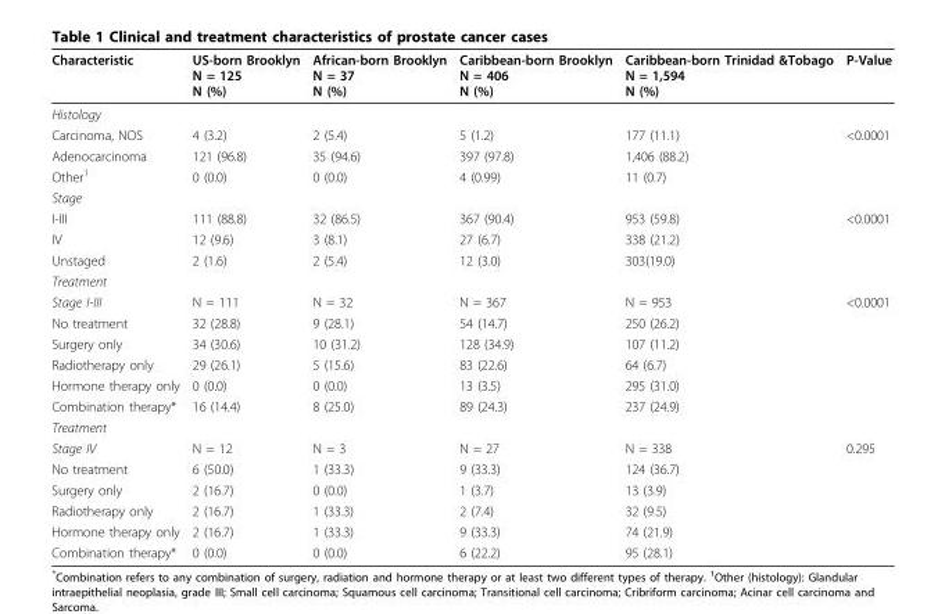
<table><thead><tr><td>Characteristic</td><td>US-born Brooklyn N = 125 N (%)</td><td>African-born Brooklyn N = 37 N (%)</td><td>Caribbean-born Brooklyn N = 406 N (%)</td><td>Caribbean-born Trinidad &amp;Tobago N = 1,594 N (%)</td><td>P-Value</td></tr></thead><tbody><tr><td colspan="6">Histology</td></tr><tr><td>Carcinoma, NOS</td><td>4 (3.2)</td><td>2 (5.4)</td><td>5 (1.2)</td><td>177 (11.1)</td><td>&lt;0.0001</td></tr><tr><td>Adenocarcinoma</td><td>121 (96.8)</td><td>35 (94.6)</td><td>397 (97.8)</td><td>1,406 (88.2)</td><td></td></tr><tr><td>Other<sup>1</sup></td><td>0 (0.0)</td><td>0 (0.0)</td><td>4 (0.99)</td><td>11 (0.7)</td><td></td></tr><tr><td colspan="6">Stage</td></tr><tr><td>I-III</td><td>111 (88.8)</td><td>32 (86.5)</td><td>367 (90.4)</td><td>953 (59.8)</td><td>&lt;0.0001</td></tr><tr><td>IV</td><td>12 (9.6)</td><td>3 (8.1)</td><td>27 (6.7)</td><td>338 (21.2)</td><td></td></tr><tr><td>Unstaged</td><td>2 (1.6)</td><td>2 (5.4)</td><td>12 (3.0)</td><td>303(19.0)</td><td></td></tr><tr><td colspan="6">Treatment</td></tr><tr><td>Stage I-III</td><td>N = 111</td><td>N = 32</td><td>N = 367</td><td>N = 953</td><td>&lt;0.0001</td></tr><tr><td>No treatment</td><td>32 (28.8)</td><td>9 (28.1)</td><td>54 (14.7)</td><td>250 (26.2)</td><td></td></tr><tr><td>Surgery only</td><td>34 (30.6)</td><td>10 (31.2)</td><td>128 (34.9)</td><td>107 (11.2)</td><td></td></tr><tr><td>Radiotherapy only</td><td>29 (26.1)</td><td>5 (15.6)</td><td>83 (22.6)</td><td>64 (6.7)</td><td></td></tr><tr><td>Hormone therapy only</td><td>0 (0.0)</td><td>0 (0.0)</td><td>13 (3.5)</td><td>295 (31.0)</td><td></td></tr><tr><td>Combination therapy*</td><td>16 (14.4)</td><td>8 (25.0)</td><td>89 (24.3)</td><td>237 (24.9)</td><td></td></tr><tr><td colspan="6">Treatment</td></tr><tr><td>Stage IV</td><td>N = 12</td><td>N = 3</td><td>N = 27</td><td>N = 338</td><td>0.295</td></tr><tr><td>No treatment</td><td>6 (50.0)</td><td>1 (33.3)</td><td>9 (33.3)</td><td>124 (36.7)</td><td></td></tr><tr><td>Surgery only</td><td>2 (16.7)</td><td>0 (0.0)</td><td>1 (3.7)</td><td>13 (3.9)</td><td></td></tr><tr><td>Radiotherapy only</td><td>2 (16.7)</td><td>1 (33.3)</td><td>2 (7.4)</td><td>32 (9.5)</td><td></td></tr><tr><td>Hormone therapy only</td><td>2 (16.7)</td><td>1 (33.3)</td><td>9 (33.3)</td><td>74 (21.9)</td><td></td></tr><tr><td>Combination therapy*</td><td>0 (0.0)</td><td>0 (0.0)</td><td>6 (22.2)</td><td>95 (28.1)</td><td></td></tr></tbody></table>